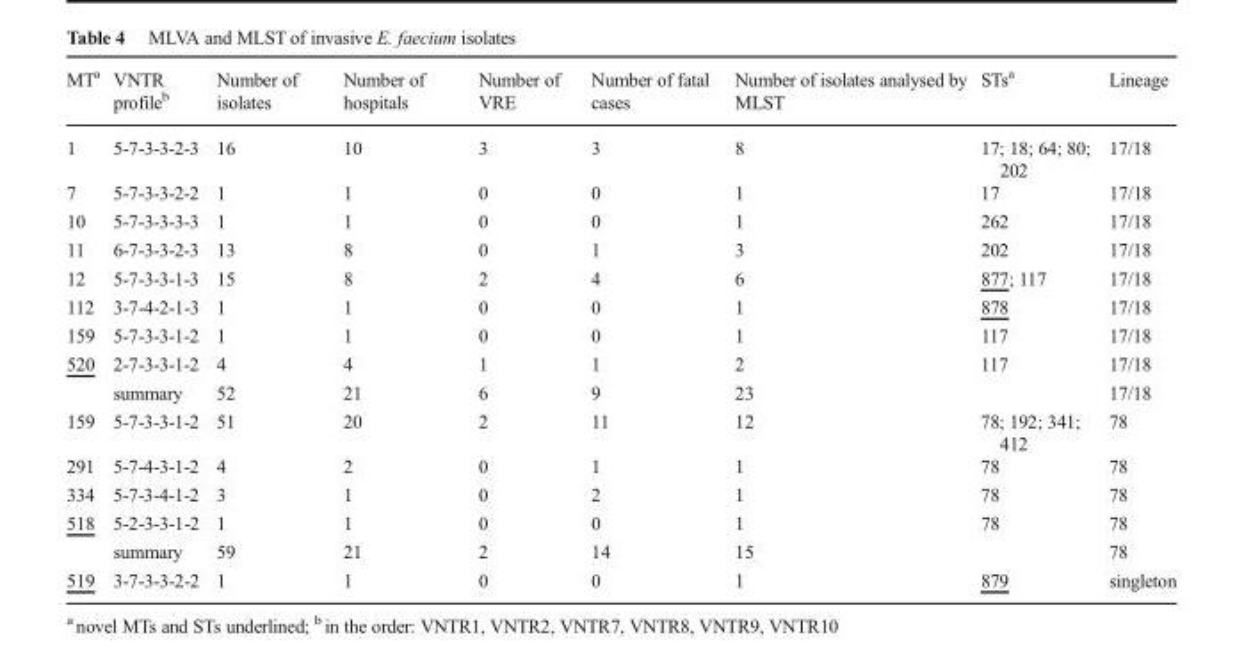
<table><thead><tr><td>MT<sup>a</sup></td><td>VNTR profile<sup>b</sup></td><td>Number of isolates</td><td>Number of hospitals</td><td>Number of VRE</td><td>Number of fatal cases</td><td>Number of isolates analysed by MLST</td><td>STs<sup>a</sup></td><td>Lineage</td></tr></thead><tbody><tr><td>1</td><td>5-7-3-3-2-3</td><td>16</td><td>10</td><td>3</td><td>3</td><td>8</td><td>17; 18; 64; 80; 202</td><td>17/18</td></tr><tr><td>7</td><td>5-7-3-3-2-2</td><td>1</td><td>1</td><td>0</td><td>0</td><td>1</td><td>17</td><td>17/18</td></tr><tr><td>10</td><td>5-7-3-3-3-3</td><td>1</td><td>1</td><td>0</td><td>0</td><td>1</td><td>262</td><td>17/18</td></tr><tr><td>11</td><td>6-7-3-3-2-3</td><td>13</td><td>8</td><td>0</td><td>1</td><td>3</td><td>202</td><td>17/18</td></tr><tr><td>12</td><td>5-7-3-3-1-3</td><td>15</td><td>8</td><td>2</td><td>4</td><td>6</td><td>877; 117</td><td>17/18</td></tr><tr><td>112</td><td>3-7-4-2-1-3</td><td>1</td><td>1</td><td>0</td><td>0</td><td>1</td><td>878</td><td>17/18</td></tr><tr><td>159</td><td>5-7-3-3-1-2</td><td>1</td><td>1</td><td>0</td><td>0</td><td>1</td><td>117</td><td>17/18</td></tr><tr><td rowspan="2">520</td><td>2-7-3-3-1-2</td><td>4</td><td>4</td><td>1</td><td>1</td><td>2</td><td>117</td><td>17/18</td></tr><tr><td>summary</td><td>52</td><td>21</td><td>6</td><td>9</td><td>23</td><td></td><td>17/18</td></tr><tr><td>159</td><td>5-7-3-3-1-2</td><td>51</td><td>20</td><td>2</td><td>11</td><td>12</td><td>78; 192; 341; 412</td><td>78</td></tr><tr><td>291</td><td>5-7-4-3-1-2</td><td>4</td><td>2</td><td>0</td><td>1</td><td>1</td><td>78</td><td>78</td></tr><tr><td>334</td><td>5-7-3-4-1-2</td><td>3</td><td>1</td><td>0</td><td>2</td><td>1</td><td>78</td><td>78</td></tr><tr><td rowspan="2">518</td><td>5-2-3-3-1-2</td><td>1</td><td>1</td><td>0</td><td>0</td><td>1</td><td>78</td><td>78</td></tr><tr><td>summary</td><td>59</td><td>21</td><td>2</td><td>14</td><td>15</td><td></td><td>78</td></tr><tr><td>519</td><td>3-7-3-3-2-2</td><td>1</td><td>1</td><td>0</td><td>0</td><td>1</td><td>879</td><td>singleton</td></tr></tbody></table>